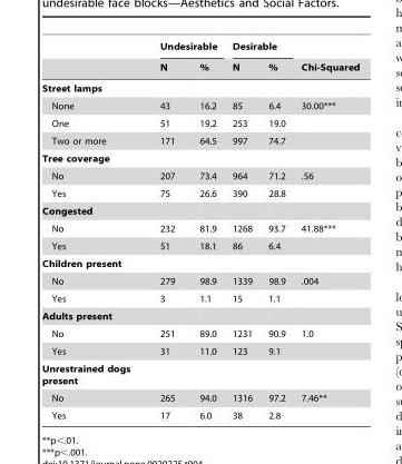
<table><thead><tr><td rowspan="2"></td><td colspan="2">Undesirable</td><td colspan="2">Desirable</td><td rowspan="2">Chi-Squared</td></tr><tr><td>N</td><td>%</td><td>N</td><td>%</td></tr></thead><tbody><tr><td colspan="6">Street lamps</td></tr><tr><td>None</td><td>43</td><td>16.2</td><td>85</td><td>6.4</td><td>30.00***</td></tr><tr><td>One</td><td>51</td><td>19.2</td><td>253</td><td>19.0</td><td></td></tr><tr><td>Two or more</td><td>171</td><td>64.5</td><td>997</td><td>74.7</td><td></td></tr><tr><td colspan="6">Tree coverage</td></tr><tr><td>No</td><td>207</td><td>73.4</td><td>964</td><td>71.2</td><td>.56</td></tr><tr><td>Yes</td><td>75</td><td>26.6</td><td>390</td><td>28.8</td><td></td></tr><tr><td colspan="6">Congested</td></tr><tr><td>No</td><td>232</td><td>81.9</td><td>1268</td><td>93.7</td><td>41.88***</td></tr><tr><td>Yes</td><td>51</td><td>18.1</td><td>86</td><td>6.4</td><td></td></tr><tr><td colspan="6">Children present</td></tr><tr><td>No</td><td>279</td><td>98.9</td><td>1339</td><td>98.9</td><td>.004</td></tr><tr><td>Yes</td><td>3</td><td>1.1</td><td>15</td><td>1.1</td><td></td></tr><tr><td colspan="6">Adults present</td></tr><tr><td>No</td><td>251</td><td>89.0</td><td>1231</td><td>90.9</td><td>1.0</td></tr><tr><td>Yes</td><td>31</td><td>11.0</td><td>123</td><td>9.1</td><td></td></tr><tr><td colspan="6">Unrestrained dogs present</td></tr><tr><td>No</td><td>265</td><td>94.0</td><td>1316</td><td>97.2</td><td>7.46**</td></tr><tr><td>Yes</td><td>17</td><td>6.0</td><td>38</td><td>2.8</td><td></td></tr></tbody></table>